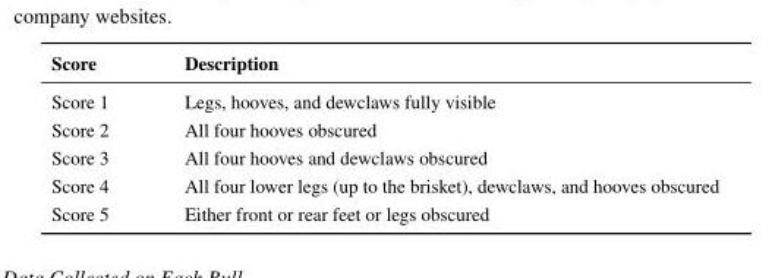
<table><thead><tr><td>Score</td><td>Description</td></tr></thead><tbody><tr><td>Score 1 Score 2 Score 3 Score 4 Score 5</td><td>Legs, hooves, and dewclaws fully visible All four hooves obscured All four hooves and dewclaws obscured All four lower legs (up to the brisket), dewclaws, and hooves obscured Either front or rear feet or legs obscured</td></tr></tbody></table>